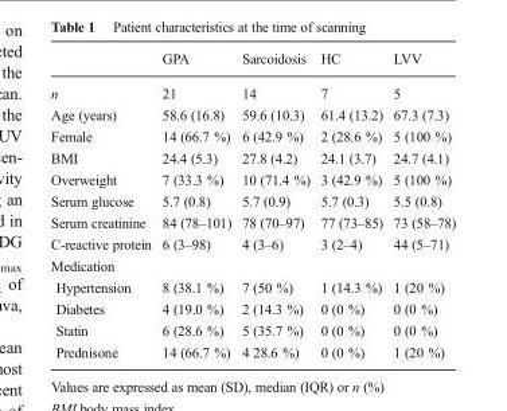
<table><thead><tr><td></td><td>GPA</td><td>Sarcoidosis</td><td>HC</td><td>LVV</td></tr></thead><tbody><tr><td>n</td><td>21</td><td>14</td><td>7</td><td>5</td></tr><tr><td>Age (years)</td><td>58.6 (16.8)</td><td>59.6 (10.3)</td><td>61.4 (13.2)</td><td>67.3 (7.3)</td></tr><tr><td>Female</td><td>14 (66.7 %)</td><td>6 (42.9 %)</td><td>2 (28.6 %)</td><td>5 (100 %)</td></tr><tr><td>BMI</td><td>24.4 (5.3)</td><td>27.8 (4.2)</td><td>24.1 (3.7)</td><td>24.7 (4.1)</td></tr><tr><td>Overweight</td><td>7 (33.3 %)</td><td>10 (71.4 %)</td><td>3 (42.9 %)</td><td>5 (100 %)</td></tr><tr><td>Serum glucose</td><td>5.7 (0.8)</td><td>5.7 (0.9)</td><td>5.7 (0.3)</td><td>5.5 (0.8)</td></tr><tr><td>Serum creatinine</td><td>84 (78–101)</td><td>78 (70–97)</td><td>77 (73–85)</td><td>73 (58–78)</td></tr><tr><td>C-reactive protein</td><td>6 (3–98)</td><td>4 (3–6)</td><td>3 (2–4)</td><td>44 (5–71)</td></tr><tr><td colspan="5">Medication</td></tr><tr><td>Hypertension</td><td>8 (38.1 %)</td><td>7 (50 %)</td><td>1 (14.3 %)</td><td>1 (20 %)</td></tr><tr><td>Diabetes</td><td>4 (19.0 %)</td><td>2 (14.3 %)</td><td>0 (0 %)</td><td>0 (0 %)</td></tr><tr><td>Statin</td><td>6 (28.6 %)</td><td>5 (35.7 %)</td><td>0 (0 %)</td><td>0 (0 %)</td></tr><tr><td>Prednisone</td><td>14 (66.7 %)</td><td>4 28.6 %)</td><td>0 (0 %)</td><td>1 (20 %)</td></tr></tbody></table>